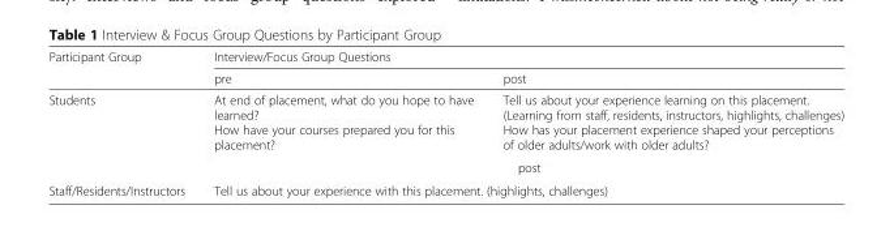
<table><thead><tr><td rowspan="2">Participant Group</td><td colspan="2">Interview/Focus Group Questions</td></tr><tr><td>pre</td><td>post</td></tr></thead><tbody><tr><td rowspan="2">Students</td><td>At end of placement, what do you hope to have learned? How have your courses prepared you for this placement?</td><td>Tell us about your experience learning on this placement. (Learning from staff, residents, instructors, highlights, challenges) How has your placement experience shaped your perceptions of older adults/work with older adults?</td></tr><tr><td colspan="2">post</td></tr><tr><td>Staff/Residents/Instructors</td><td colspan="2">Tell us about your experience with this placement. (highlights, challenges)</td></tr></tbody></table>